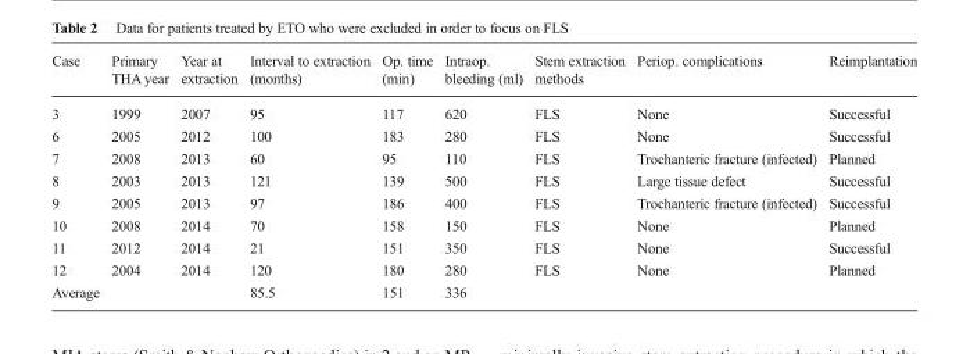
<table><thead><tr><td>Case</td><td>Primary THA year</td><td>Year at extraction</td><td>Interval to extraction (months)</td><td>Op. time (min)</td><td>Intraop. bleeding (ml)</td><td>Stem extraction methods</td><td>Periop. complications</td><td>Reimplantation</td></tr></thead><tbody><tr><td>3</td><td>1999</td><td>2007</td><td>95</td><td>117</td><td>620</td><td>FLS</td><td>None</td><td>Successful</td></tr><tr><td>6</td><td>2005</td><td>2012</td><td>100</td><td>183</td><td>280</td><td>FLS</td><td>None</td><td>Successful</td></tr><tr><td>7</td><td>2008</td><td>2013</td><td>60</td><td>95</td><td>110</td><td>FLS</td><td>Trochanteric fracture (infected)</td><td>Planned</td></tr><tr><td>8</td><td>2003</td><td>2013</td><td>121</td><td>139</td><td>500</td><td>FLS</td><td>Large tissue defect</td><td>Successful</td></tr><tr><td>9</td><td>2005</td><td>2013</td><td>97</td><td>186</td><td>400</td><td>FLS</td><td>Trochanteric fracture (infected)</td><td>Successful</td></tr><tr><td>10</td><td>2008</td><td>2014</td><td>70</td><td>158</td><td>150</td><td>FLS</td><td>None</td><td>Planned</td></tr><tr><td>11</td><td>2012</td><td>2014</td><td>21</td><td>151</td><td>350</td><td>FLS</td><td>None</td><td>Successful</td></tr><tr><td>12</td><td>2004</td><td>2014</td><td>120</td><td>180</td><td>280</td><td>FLS</td><td>None</td><td>Planned</td></tr><tr><td>Average</td><td></td><td></td><td>85.5</td><td>151</td><td>336</td><td></td><td></td><td></td></tr></tbody></table>